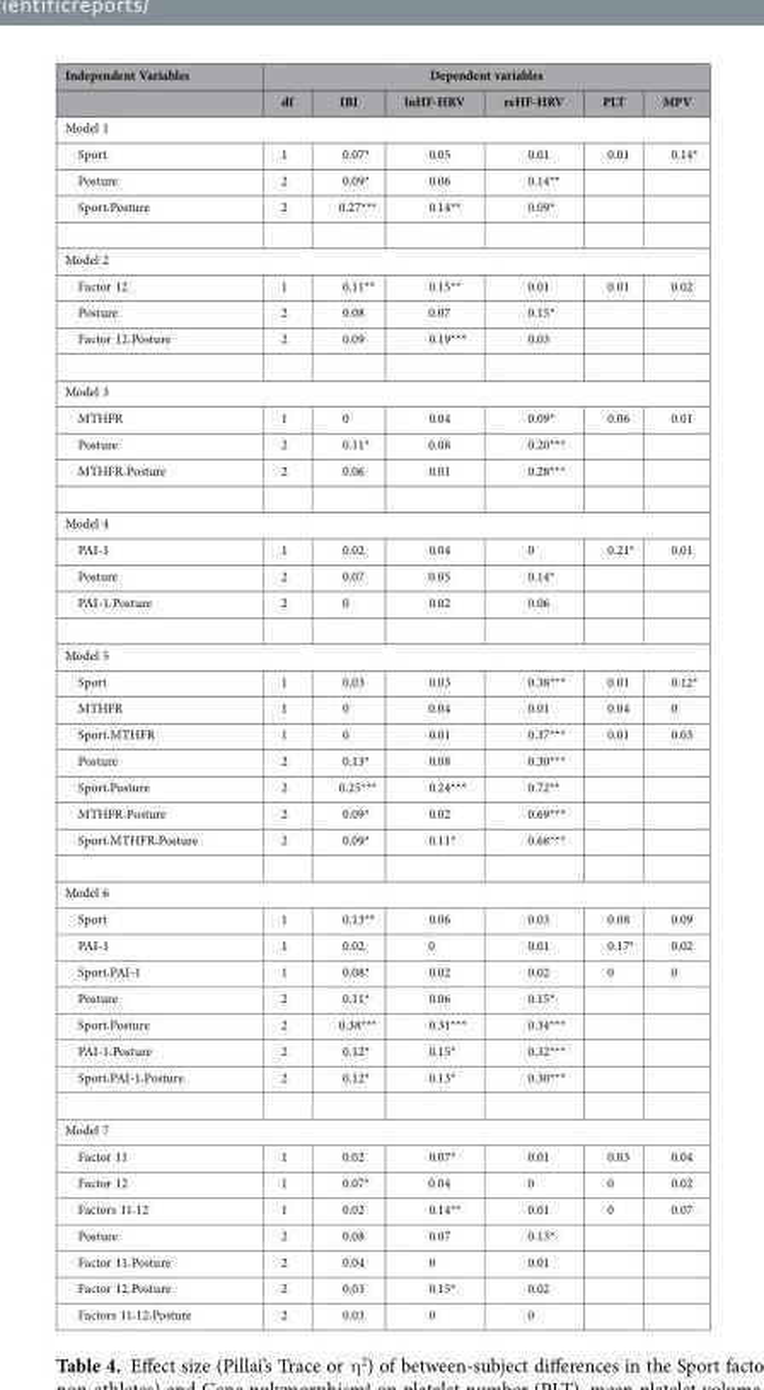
<table><thead><tr><td rowspan="2">Independent Variables</td><td colspan="6">Dependent variables</td></tr><tr><td>df</td><td>IBI</td><td>lnHF-HRV</td><td>reHF-HRV</td><td>PLT</td><td>MPV</td></tr></thead><tbody><tr><td colspan="7">Model 1</td></tr><tr><td>Sport</td><td>1</td><td>0.07*</td><td>0.05</td><td>0.01</td><td>0.01</td><td>0.14*</td></tr><tr><td>Posture</td><td>2</td><td>0.09*</td><td>0.06</td><td>0.14**</td><td></td><td></td></tr><tr><td>Sport<sub>*</sub>Posture</td><td>2</td><td>0.27***</td><td>0.14**</td><td>0.09*</td><td></td><td></td></tr><tr><td colspan="7">Model 2</td></tr><tr><td>Factor 12</td><td>1</td><td>0.11**</td><td>0.15**</td><td>0.01</td><td>0.01</td><td>0.02</td></tr><tr><td>Posture</td><td>2</td><td>0.08</td><td>0.07</td><td>0.15*</td><td></td><td></td></tr><tr><td>Factor 12<sub>*</sub>Posture</td><td>2</td><td>0.09</td><td>0.19***</td><td>0.03</td><td></td><td></td></tr><tr><td colspan="7">Model 3</td></tr><tr><td>MTHFR</td><td>1</td><td>0</td><td>0.04</td><td>0.09*</td><td>0.06</td><td>0.01</td></tr><tr><td>Posture</td><td>2</td><td>0.11*</td><td>0.08</td><td>0.20***</td><td></td><td></td></tr><tr><td>MTHFR<sub>*</sub>Posture</td><td>2</td><td>0.06</td><td>0.01</td><td>0.28***</td><td></td><td></td></tr><tr><td colspan="7">Model 4</td></tr><tr><td>PAI-1</td><td>1</td><td>0.02</td><td>0.04</td><td>0</td><td>0.21*</td><td>0.01</td></tr><tr><td>Posture</td><td>2</td><td>0.07</td><td>0.05</td><td>0.14*</td><td></td><td></td></tr><tr><td>PAI-1<sub>*</sub>Posture</td><td>2</td><td>0</td><td>0.02</td><td>0.06</td><td></td><td></td></tr><tr><td colspan="7">Model 5</td></tr><tr><td>Sport</td><td>1</td><td>0.03</td><td>0.03</td><td>0.38***</td><td>0.01</td><td>0.12*</td></tr><tr><td>MTHFR</td><td>1</td><td>0</td><td>0.04</td><td>0.01</td><td>0.04</td><td>0</td></tr><tr><td>Sport<sub>*</sub>MTHFR</td><td>1</td><td>0</td><td>0.01</td><td>0.37***</td><td>0.01</td><td>0.03</td></tr><tr><td>Posture</td><td>2</td><td>0.13*</td><td>0.08</td><td>0.30***</td><td></td><td></td></tr><tr><td>Sport<sub>*</sub>Posture</td><td>2</td><td>0.25***</td><td>0.24***</td><td>0.72**</td><td></td><td></td></tr><tr><td>MTHFR<sub>*</sub>Posture</td><td>2</td><td>0.09*</td><td>0.02</td><td>0.69***</td><td></td><td></td></tr><tr><td>Sport<sub>*</sub>MTHFR<sub>*</sub>Posture</td><td>2</td><td>0.09*</td><td>0.11*</td><td>0.68***</td><td></td><td></td></tr><tr><td colspan="7">Model 6</td></tr><tr><td>Sport</td><td>1</td><td>0.13**</td><td>0.06</td><td>0.03</td><td>0.08</td><td>0.09</td></tr><tr><td>PAI-1</td><td>1</td><td>0.02</td><td>0</td><td>0.01</td><td>0.17*</td><td>0.02</td></tr><tr><td>Sport<sub>*</sub>PAI-1</td><td>1</td><td>0.08*</td><td>0.02</td><td>0.02</td><td>0</td><td>0</td></tr><tr><td>Posture</td><td>2</td><td>0.11*</td><td>0.06</td><td>0.15*</td><td></td><td></td></tr><tr><td>Sport<sub>*</sub>Posture</td><td>2</td><td>0.38***</td><td>0.31***</td><td>0.34***</td><td></td><td></td></tr><tr><td>PAI-1<sub>*</sub>Posture</td><td>2</td><td>0.12*</td><td>0.15*</td><td>0.32***</td><td></td><td></td></tr><tr><td>Sport<sub>*</sub>PAI-1<sub>*</sub>Posture</td><td>2</td><td>0.12*</td><td>0.13*</td><td>0.30***</td><td></td><td></td></tr><tr><td colspan="7">Model 7</td></tr><tr><td>Factor 11</td><td>1</td><td>0.02</td><td>0.07*</td><td>0.01</td><td>0.03</td><td>0.04</td></tr><tr><td>Factor 12</td><td>1</td><td>0.07*</td><td>0.04</td><td>0</td><td>0</td><td>0.02</td></tr><tr><td>Factors 11<sub>*</sub>12</td><td>1</td><td>0.02</td><td>0.14**</td><td>0.01</td><td>0</td><td>0.07</td></tr><tr><td>Posture</td><td>2</td><td>0.08</td><td>0.07</td><td>0.13*</td><td></td><td></td></tr><tr><td>Factor 11<sub>*</sub>Posture</td><td>2</td><td>0.04</td><td>0</td><td>0.01</td><td></td><td></td></tr><tr><td>Factor 12<sub>*</sub>Posture</td><td>2</td><td>0.03</td><td>0.15*</td><td>0.02</td><td></td><td></td></tr><tr><td>Factors 11<sub>*</sub>12<sub>*</sub>Posture</td><td>2</td><td>0.03</td><td>0</td><td>0</td><td></td><td></td></tr></tbody></table>